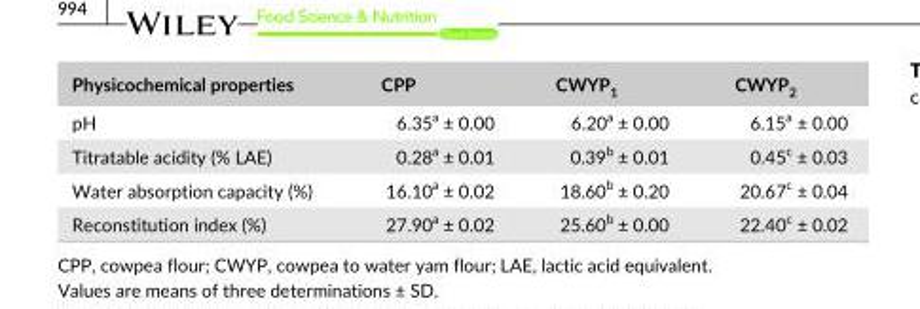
<table><thead><tr><td>Physicochemical properties</td><td>CPP</td><td>CWYP<sub>1</sub></td><td>CWYP<sub>2</sub></td></tr></thead><tbody><tr><td>pH</td><td>6.35<sup>a</sup> ± 0.00</td><td>6.20<sup>a</sup> ± 0.00</td><td>6.15<sup>a</sup> ± 0.00</td></tr><tr><td>Titratable acidity (% LAE)</td><td>0.28<sup>a</sup> ± 0.01</td><td>0.39<sup>b</sup> ± 0.01</td><td>0.45<sup>c</sup> ± 0.03</td></tr><tr><td>Water absorption capacity (%)</td><td>16.10<sup>a</sup> ± 0.02</td><td>18.60<sup>b</sup> ± 0.20</td><td>20.67<sup>c</sup> ± 0.04</td></tr><tr><td>Reconstitution index (%)</td><td>27.90<sup>a</sup> ± 0.02</td><td>25.60<sup>b</sup> ± 0.00</td><td>22.40<sup>c</sup> ± 0.02</td></tr></tbody></table>